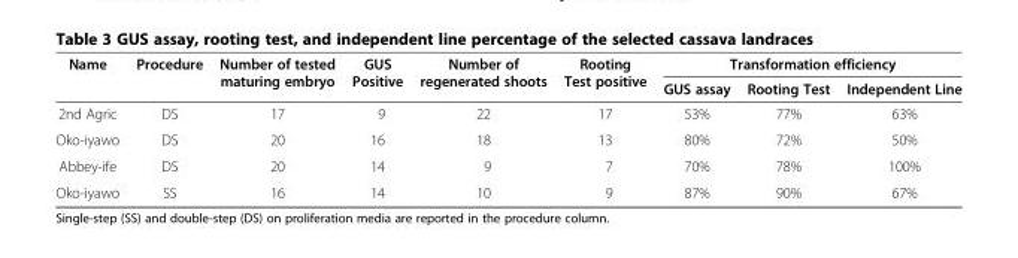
<table><thead><tr><td rowspan="2">Name</td><td rowspan="2">Procedure</td><td rowspan="2">Number of tested maturing embryo</td><td rowspan="2">GUS Positive</td><td rowspan="2">Number of regenerated shoots</td><td rowspan="2">Rooting Test positive</td><td colspan="3">Transformation efficiency</td></tr><tr><td>GUS assay</td><td>Rooting Test</td><td>Independent Line</td></tr></thead><tbody><tr><td>2nd Agric</td><td>DS</td><td>17</td><td>9</td><td>22</td><td>17</td><td>53%</td><td>77%</td><td>63%</td></tr><tr><td>Oko-iyawo</td><td>DS</td><td>20</td><td>16</td><td>18</td><td>13</td><td>80%</td><td>72%</td><td>50%</td></tr><tr><td>Abbey-ife</td><td>DS</td><td>20</td><td>14</td><td>9</td><td>7</td><td>70%</td><td>78%</td><td>100%</td></tr><tr><td>Oko-iyawo</td><td>SS</td><td>16</td><td>14</td><td>10</td><td>9</td><td>87%</td><td>90%</td><td>67%</td></tr></tbody></table>